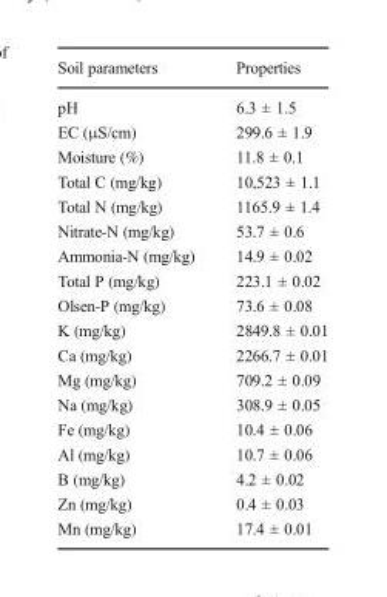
<table><thead><tr><td>Soil parameters</td><td>Properties</td></tr></thead><tbody><tr><td>pH</td><td>6.3 ± 1.5</td></tr><tr><td>EC (μS/cm)</td><td>299.6 ± 1.9</td></tr><tr><td>Moisture (%)</td><td>11.8 ± 0.1</td></tr><tr><td>Total C (mg/kg)</td><td>10,523 ± 1.1</td></tr><tr><td>Total N (mg/kg)</td><td>1165.9 ± 1.4</td></tr><tr><td>Nitrate-N (mg/kg)</td><td>53.7 ± 0.6</td></tr><tr><td>Ammonia-N (mg/kg)</td><td>14.9 ± 0.02</td></tr><tr><td>Total P (mg/kg)</td><td>223.1 ± 0.02</td></tr><tr><td>Olsen-P (mg/kg)</td><td>73.6 ± 0.08</td></tr><tr><td>K (mg/kg)</td><td>2849.8 ± 0.01</td></tr><tr><td>Ca (mg/kg)</td><td>2266.7 ± 0.01</td></tr><tr><td>Mg (mg/kg)</td><td>709.2 ± 0.09</td></tr><tr><td>Na (mg/kg)</td><td>308.9 ± 0.05</td></tr><tr><td>Fe (mg/kg)</td><td>10.4 ± 0.06</td></tr><tr><td>Al (mg/kg)</td><td>10.7 ± 0.06</td></tr><tr><td>B (mg/kg)</td><td>4.2 ± 0.02</td></tr><tr><td>Zn (mg/kg)</td><td>0.4 ± 0.03</td></tr><tr><td>Mn (mg/kg)</td><td>17.4 ± 0.01</td></tr></tbody></table>